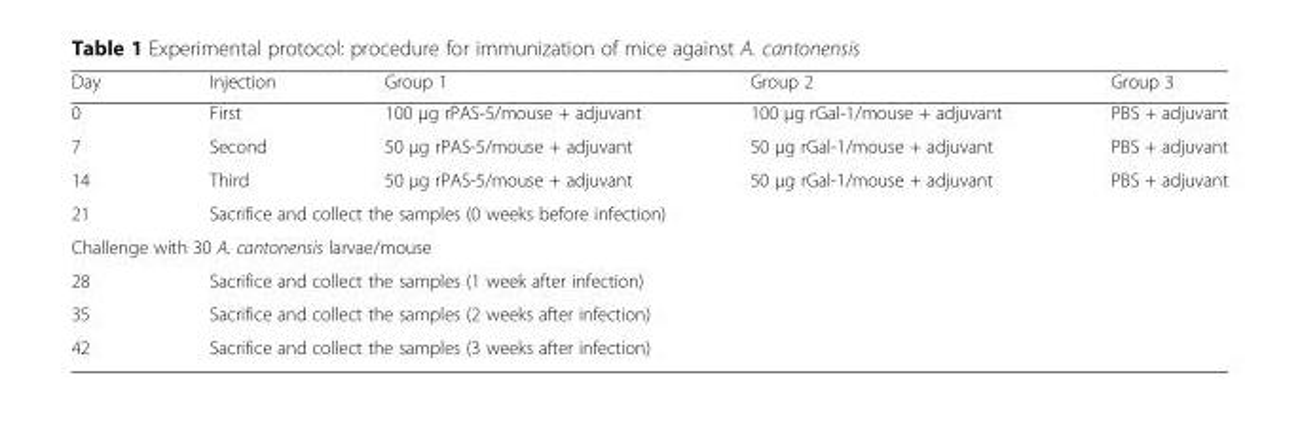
<table><thead><tr><td>Day</td><td>Injection</td><td>Group 1</td><td>Group 2</td><td>Group 3</td></tr></thead><tbody><tr><td>0</td><td>First</td><td>100 μg rPAS-5/mouse + adjuvant</td><td>100 μg rGal-1/mouse + adjuvant</td><td>PBS + adjuvant</td></tr><tr><td>7</td><td>Second</td><td>50 μg rPAS-5/mouse + adjuvant</td><td>50 μg rGal-1/mouse + adjuvant</td><td>PBS + adjuvant</td></tr><tr><td>14</td><td>Third</td><td>50 μg rPAS-5/mouse + adjuvant</td><td>50 μg rGal-1/mouse + adjuvant</td><td>PBS + adjuvant</td></tr><tr><td>21</td><td colspan="4">Sacrifice and collect the samples (0 weeks before infection)</td></tr><tr><td colspan="5">Challenge with 30 A. cantonensis larvae/mouse</td></tr><tr><td>28</td><td colspan="4">Sacrifice and collect the samples (1 week after infection)</td></tr><tr><td>35</td><td colspan="4">Sacrifice and collect the samples (2 weeks after infection)</td></tr><tr><td>42</td><td colspan="4">Sacrifice and collect the samples (3 weeks after infection)</td></tr></tbody></table>